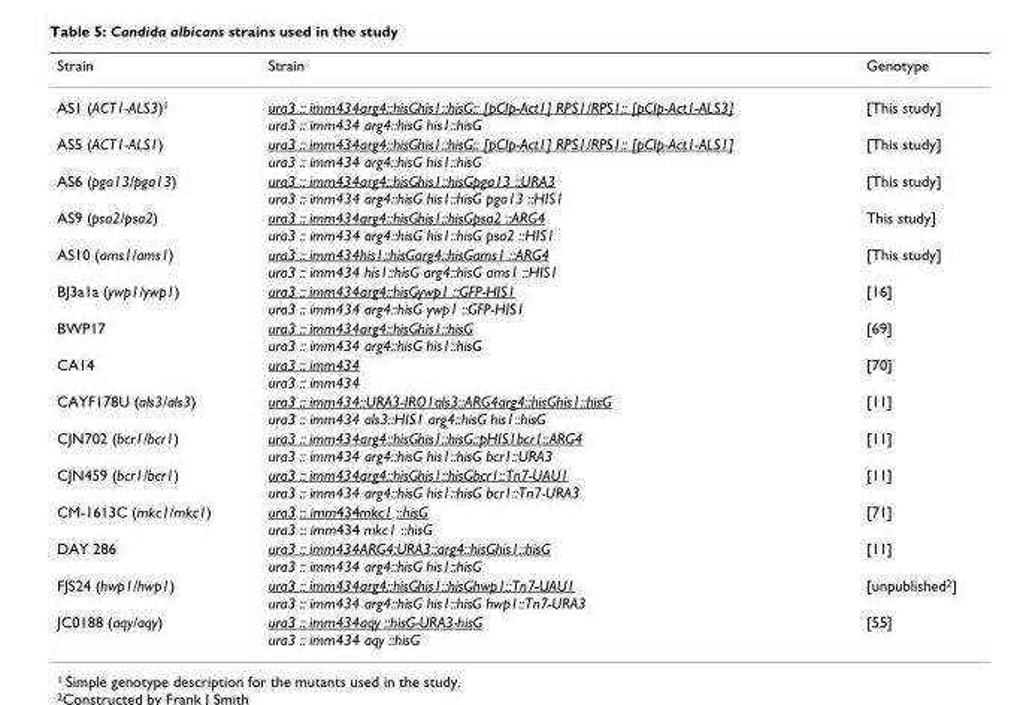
<table><thead><tr><td>Strain</td><td>Strain</td><td>Genotype</td></tr></thead><tbody><tr><td>AS1 (ACT1-ALS3)<sup>1</sup></td><td>ura3 :: imm434arg4::hisGhis1::hisG:: [pCIp-Act1] RPS1/RPS1:: [pCIp-Act1-ALS3] ura3 :: imm434 arg4::hisG his1::hisG</td><td>[This study]</td></tr><tr><td>AS5 (ACT1-ALS1)</td><td>ura3 :: imm434arg4::hisGhis1::hisG:: [pCIp-Act1] RPS1/RPS1:: [pCIp-Act1-ALS1] ura3 :: imm434 arg4::hisG his1::hisG</td><td>[This study]</td></tr><tr><td>AS6 (pga13/pga13)</td><td>ura3 :: imm434arg4::hisGhis1::hisGpga13 ::URA3 ura3 :: imm434 arg4::hisG his1::hisG pga13 ::HIS1</td><td>[This study]</td></tr><tr><td>AS9 (psa2/psa2)</td><td>ura3 :: imm434arg4::hisGhis1::hisGpsa2 ::ARG4 ura3 :: imm434 arg4::hisG his1::hisG psa2 ::HIS1</td><td>This study]</td></tr><tr><td>AS10 (ams1/ams1)</td><td>ura3 :: imm434his1::hisGarg4::hisGams1 ::ARG4 ura3 :: imm434 his1::hisG arg4::hisG ams1 ::HIS1</td><td>[This study]</td></tr><tr><td>BJ3a1a (ywp1/ywp1)</td><td>ura3 :: imm434arg4::hisGywp1 ::GFP-HIS1 ura3 :: imm434 arg4::hisG ywp1 ::GFP-HIS1</td><td>[16]</td></tr><tr><td>BWP17</td><td>ura3 :: imm434arg4::hisGhis1::hisG ura3 :: imm434 arg4::hisG his1::hisG</td><td>[69]</td></tr><tr><td>CA14</td><td>ura3 :: imm434 ura3 :: imm434</td><td>[70]</td></tr><tr><td>CAYF178U (als3/als3)</td><td>ura3 :: imm434::URA3-IRO1als3::ARG4arg4::hisGhis1::hisG ura3 :: imm434 als3::HIS1 arg4::hisG his1::hisG</td><td>[11]</td></tr><tr><td>CJN702 (bcr1/bcr1)</td><td>ura3 :: imm434arg4::hisGhis1::hisG::pHIS1bcr1::ARG4 ura3 :: imm434 arg4::hisG his1::hisG bcr1::URA3</td><td>[11]</td></tr><tr><td>CJN459 (bcr1/bcr1)</td><td>ura3 :: imm434arg4::hisGhis1::hisGbcr1::Tn7-UAU1 ura3 :: imm434 arg4::hisG his1::hisG bcr1::Tn7-URA3</td><td>[11]</td></tr><tr><td>CM-1613C (mkc1/mkc1)</td><td>ura3 :: imm434mkc1 ::hisG ura3 :: imm434 mkc1 ::hisG</td><td>[71]</td></tr><tr><td>DAY 286</td><td>ura3 :: imm434ARG4:URA3::arg4::hisGhis1::hisG ura3 :: imm434 arg4::hisG his1::hisG</td><td>[11]</td></tr><tr><td>FJS24 (hwp1/hwp1)</td><td>ura3 :: imm434arg4::hisGhis1::hisGhwp1::Tn7-UAU1 ura3 :: imm434 arg4::hisG his1::hisG hwp1::Tn7-URA3</td><td>[unpublished<sup>2</sup>]</td></tr><tr><td>JC0188 (aqy/aqy)</td><td>ura3 :: imm434aqy ::hisG-URA3-hisG ura3 :: imm434 aqy ::hisG</td><td>[55]</td></tr></tbody></table>